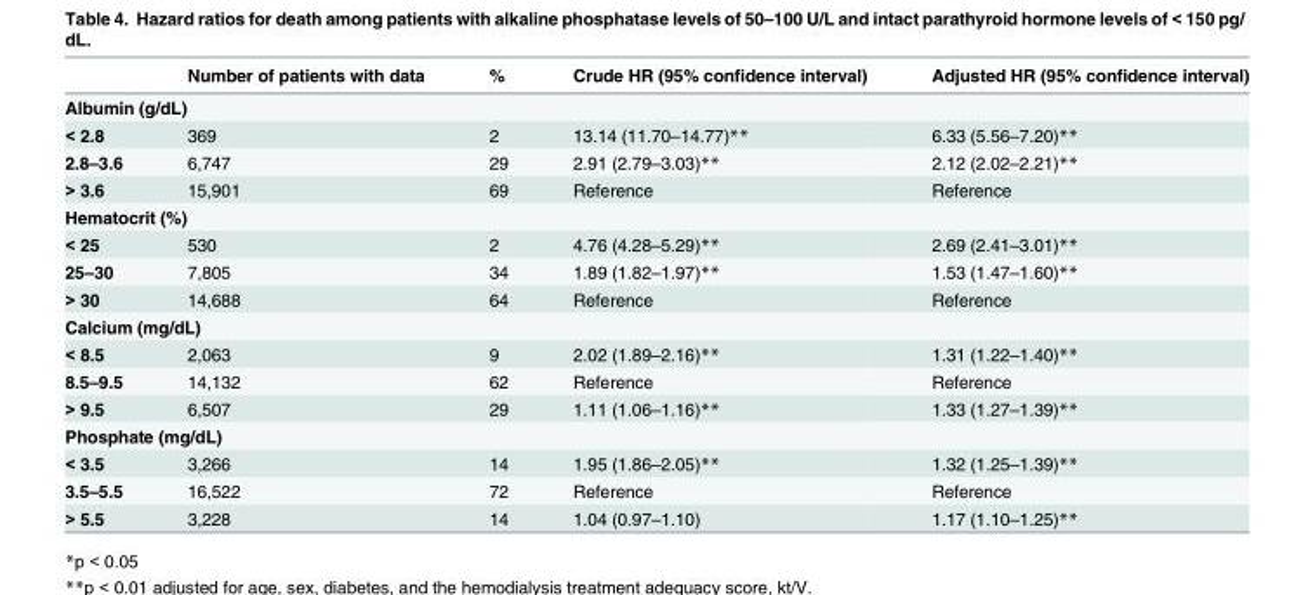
<table><thead><tr><td></td><td>Number of patients with data</td><td>%</td><td>Crude HR (95% confidence interval)</td><td>Adjusted HR (95% confidence interval)</td></tr></thead><tbody><tr><td colspan="5">Albumin (g/dL)</td></tr><tr><td>&lt; 2.8</td><td>369</td><td>2</td><td>13.14 (11.70–14.77)**</td><td>6.33 (5.56–7.20)**</td></tr><tr><td>2.8–3.6</td><td>6,747</td><td>29</td><td>2.91 (2.79–3.03)**</td><td>2.12 (2.02–2.21)**</td></tr><tr><td>&gt; 3.6</td><td>15,901</td><td>69</td><td>Reference</td><td>Reference</td></tr><tr><td colspan="5">Hematocrit (%)</td></tr><tr><td>&lt; 25</td><td>530</td><td>2</td><td>4.76 (4.28–5.29)**</td><td>2.69 (2.41–3.01)**</td></tr><tr><td>25–30</td><td>7,805</td><td>34</td><td>1.89 (1.82–1.97)**</td><td>1.53 (1.47–1.60)**</td></tr><tr><td>&gt; 30</td><td>14,688</td><td>64</td><td>Reference</td><td>Reference</td></tr><tr><td colspan="5">Calcium (mg/dL)</td></tr><tr><td>&lt; 8.5</td><td>2,063</td><td>9</td><td>2.02 (1.89–2.16)**</td><td>1.31 (1.22–1.40)**</td></tr><tr><td>8.5–9.5</td><td>14,132</td><td>62</td><td>Reference</td><td>Reference</td></tr><tr><td>&gt; 9.5</td><td>6,507</td><td>29</td><td>1.11 (1.06–1.16)**</td><td>1.33 (1.27–1.39)**</td></tr><tr><td colspan="5">Phosphate (mg/dL)</td></tr><tr><td>&lt; 3.5</td><td>3,266</td><td>14</td><td>1.95 (1.86–2.05)**</td><td>1.32 (1.25–1.39)**</td></tr><tr><td>3.5–5.5</td><td>16,522</td><td>72</td><td>Reference</td><td>Reference</td></tr><tr><td>&gt; 5.5</td><td>3,228</td><td>14</td><td>1.04 (0.97–1.10)</td><td>1.17 (1.10–1.25)**</td></tr></tbody></table>